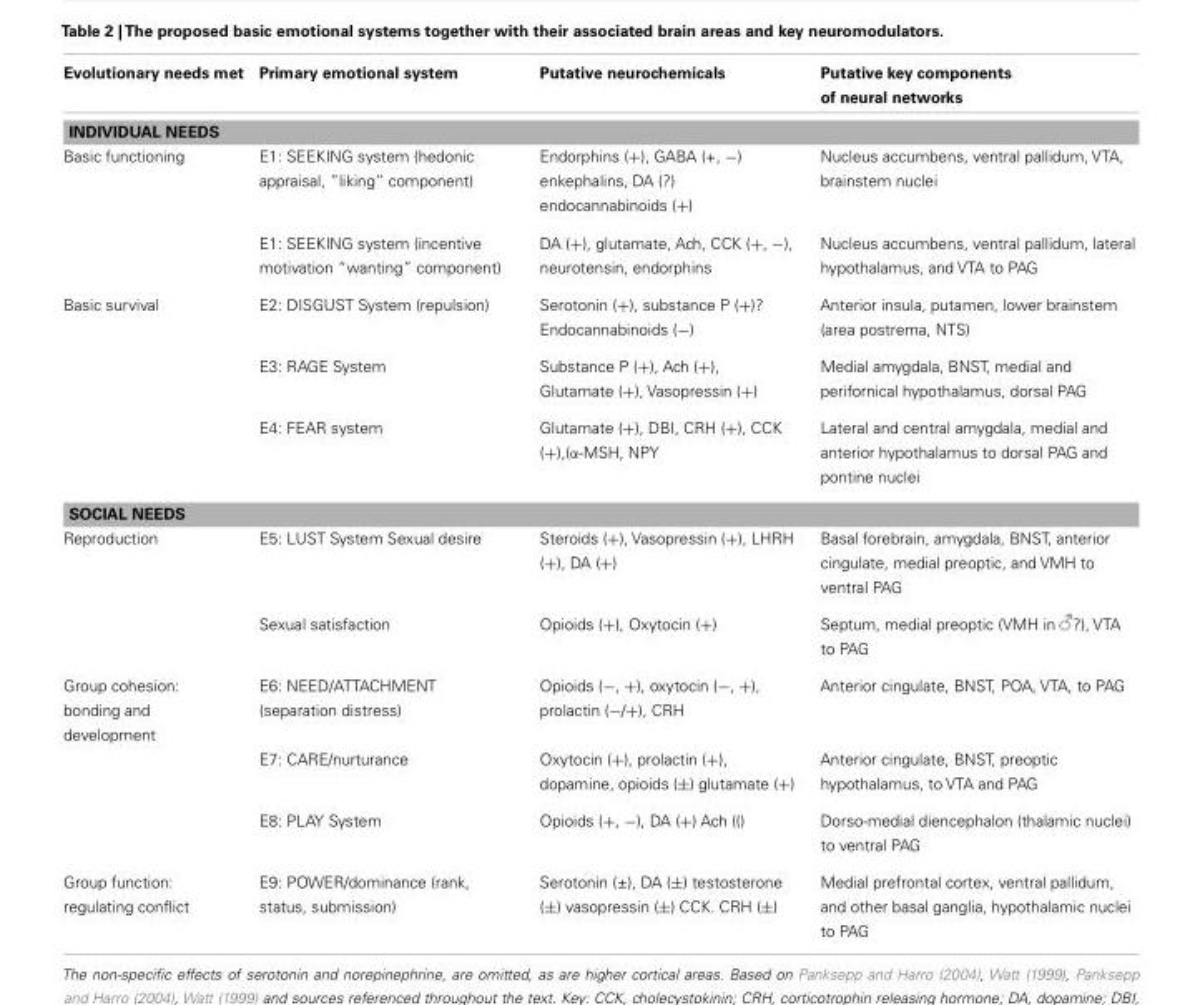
<table><thead><tr><td>Evolutionary needs met</td><td>Primary emotional system</td><td>Putative neurochemicals</td><td>Putative key components of neural networks</td></tr></thead><tbody><tr><td colspan="4">INDIVIDUAL NEEDS</td></tr><tr><td rowspan="2">Basic functioning</td><td>E1: SEEKING system (hedonic appraisal, ”liking” component)</td><td>Endorphins (+), GABA (+, −) enkephalins, DA (?) endocannabinoids (+)</td><td>Nucleus accumbens, ventral pallidum, VTA, brainstem nuclei</td></tr><tr><td>E1: SEEKING system (incentive motivation “wanting” component)</td><td>DA (+), glutamate, Ach, CCK (+, −), neurotensin, endorphins</td><td>Nucleus accumbens, ventral pallidum, lateral hypothalamus, and VTA to PAG</td></tr><tr><td rowspan="3">Basic survival</td><td>E2: DISGUST System (repulsion)</td><td>Serotonin (+), substance P (+)? Endocannabinoids (−)</td><td>Anterior insula, putamen, lower brainstem (area postrema, NTS)</td></tr><tr><td>E3: RAGE System</td><td>Substance P (+), Ach (+), Glutamate (+), Vasopressin (+)</td><td>Medial amygdala, BNST, medial and perifornical hypothalamus, dorsal PAG</td></tr><tr><td>E4: FEAR system</td><td>Glutamate (+), DBI, CRH (+), CCK (+),(α-MSH, NPY</td><td>Lateral and central amygdala, medial and anterior hypothalamus to dorsal PAG and pontine nuclei</td></tr><tr><td colspan="4">SOCIAL NEEDS</td></tr><tr><td rowspan="2">Reproduction</td><td>E5: LUST System Sexual desire</td><td>Steroids (+), Vasopressin (+), LHRH (+), DA (+)</td><td>Basal forebrain, amygdala, BNST, anterior cingulate, medial preoptic, and VMH to ventral PAG</td></tr><tr><td>Sexual satisfaction</td><td>Opioids (+), Oxytocin (+)</td><td>Septum, medial preoptic (VMH in ?), VTA to PAG</td></tr><tr><td rowspan="3">Group cohesion: bonding and development</td><td>E6: NEED/ATTACHMENT (separation distress)</td><td>Opioids (−, +), oxytocin (−, +), prolactin (−/+), CRH</td><td>Anterior cingulate, BNST, POA, VTA, to PAG</td></tr><tr><td>E7: CARE/nurturance</td><td>Oxytocin (+), prolactin (+), dopamine, opioids (±) glutamate (+)</td><td>Anterior cingulate, BNST, preoptic hypothalamus, to VTA and PAG</td></tr><tr><td>E8: PLAY System</td><td>Opioids (+, −), DA (+) Ach (()</td><td>Dorso-medial diencephalon (thalamic nuclei) to ventral PAG</td></tr><tr><td>Group function: regulating conflict</td><td>E9: POWER/dominance (rank, status, submission)</td><td>Serotonin (±), DA (±) testosterone (±) vasopressin (±) CCK. CRH (±)</td><td>Medial prefrontal cortex, ventral pallidum, and other basal ganglia, hypothalamic nuclei to PAG</td></tr></tbody></table>